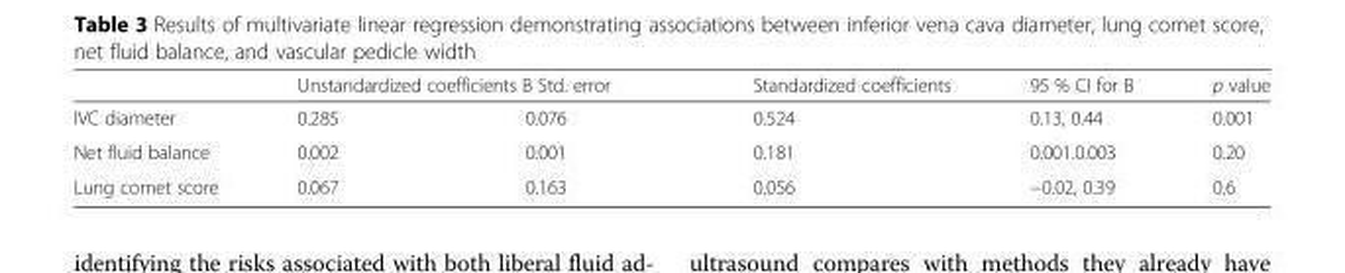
<table><thead><tr><td rowspan="2">IVC diameter</td><td colspan="2">Unstandardized coefficients B Std. error</td><td rowspan="2">Standardized coefficients 0.524</td><td rowspan="2">95 % CI for B 0.13, 0.44</td><td rowspan="2">p value 0.001</td></tr><tr><td>0.285</td><td>0.076</td></tr></thead><tbody><tr><td>Net fluid balance</td><td>0.002</td><td>0.001</td><td>0.181</td><td>0.001.0.003</td><td>0.20</td></tr><tr><td>Lung comet score</td><td>0.067</td><td>0.163</td><td>0.056</td><td>−0.02, 0.39</td><td>0.6</td></tr></tbody></table>